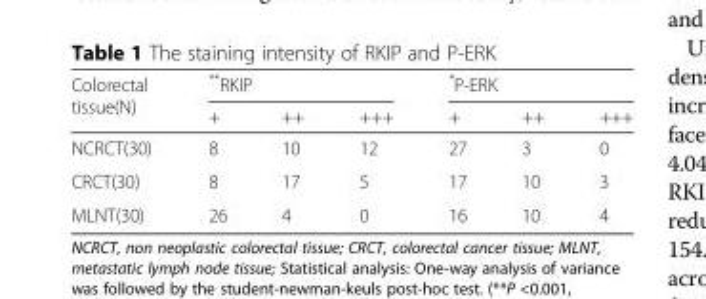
<table><thead><tr><td rowspan="2">Colorectal tissue(N)</td><td colspan="3">**RKIP</td><td colspan="3">*P-ERK</td></tr><tr><td>+</td><td>++</td><td>+++</td><td>+</td><td>++</td><td>+++</td></tr></thead><tbody><tr><td>NCRCT(30)</td><td>8</td><td>10</td><td>12</td><td>27</td><td>3</td><td>0</td></tr><tr><td>CRCT(30)</td><td>8</td><td>17</td><td>5</td><td>17</td><td>10</td><td>3</td></tr><tr><td>MLNT(30)</td><td>26</td><td>4</td><td>0</td><td>16</td><td>10</td><td>4</td></tr></tbody></table>